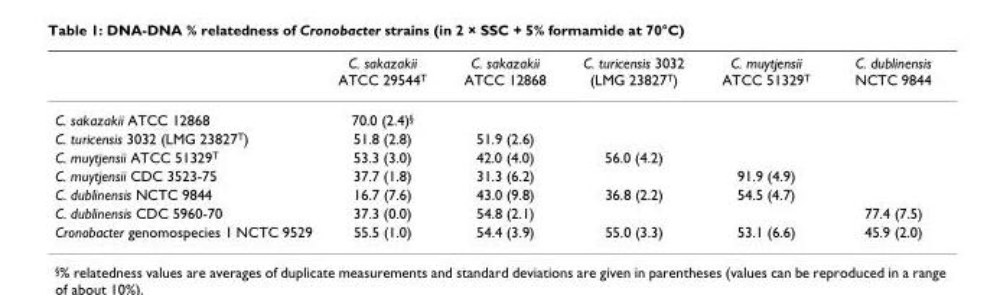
<table><thead><tr><td></td><td>C. sakazakii ATCC 29544<sup>T</sup></td><td>C. sakazakii ATCC 12868</td><td>C. turicensis 3032 (LMG 23827<sup>T</sup>)</td><td>C. muytjensii ATCC 51329<sup>T</sup></td><td>C. dublinensis NCTC 9844</td></tr></thead><tbody><tr><td>C. sakazakii ATCC 12868</td><td>70.0 (2.4)<sup>§</sup></td><td></td><td></td><td></td><td></td></tr><tr><td>C. turicensis 3032 (LMG 23827<sup>T</sup>)</td><td>51.8 (2.8)</td><td>51.9 (2.6)</td><td></td><td></td><td></td></tr><tr><td>C. muytjensii ATCC 51329<sup>T</sup></td><td>53.3 (3.0)</td><td>42.0 (4.0)</td><td>56.0 (4.2)</td><td></td><td></td></tr><tr><td>C. muytjensii CDC 3523-75</td><td>37.7 (1.8)</td><td>31.3 (6.2)</td><td></td><td>91.9 (4.9)</td><td></td></tr><tr><td>C. dublinensis NCTC 9844</td><td>16.7 (7.6)</td><td>43.0 (9.8)</td><td>36.8 (2.2)</td><td>54.5 (4.7)</td><td></td></tr><tr><td>C. dublinensis CDC 5960-70</td><td>37.3 (0.0)</td><td>54.8 (2.1)</td><td></td><td></td><td>77.4 (7.5)</td></tr><tr><td>Cronobacter genomospecies 1 NCTC 9529</td><td>55.5 (1.0)</td><td>54.4 (3.9)</td><td>55.0 (3.3)</td><td>53.1 (6.6)</td><td>45.9 (2.0)</td></tr></tbody></table>